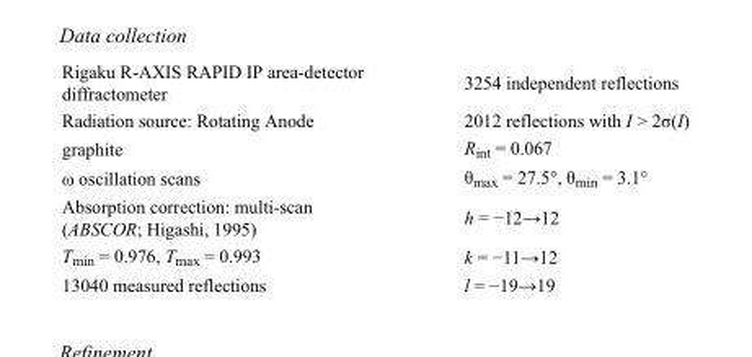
<table><tbody><tr><td>Rigaku R-AXIS RAPID IP area-detector diffractometer</td><td>3254 independent reflections</td></tr><tr><td>Radiation source: Rotating Anode</td><td>2012 reflections with I &gt; 2σ(I)</td></tr><tr><td>graphite</td><td>R<sub>int</sub> = 0.067</td></tr><tr><td>ω oscillation scans</td><td>θ<sub>max</sub> = 27.5°, θ<sub>min</sub> = 3.1°</td></tr><tr><td>Absorption correction: multi-scan (ABSCOR; Higashi, 1995)</td><td>h = −12→12</td></tr><tr><td>T<sub>min</sub> = 0.976, T<sub>max</sub> = 0.993</td><td>k = −11→12</td></tr><tr><td>13040 measured reflections</td><td>l = −19→19</td></tr></tbody></table>